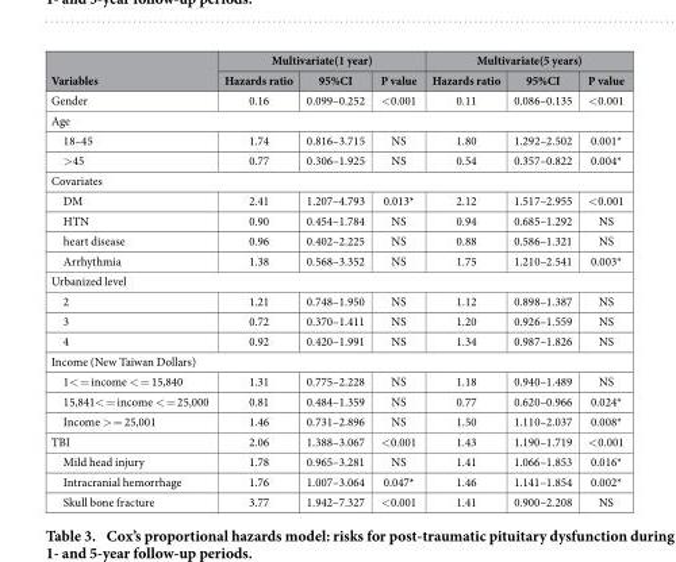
<table><thead><tr><td rowspan="2">Variables</td><td colspan="3">Multivariate(1 year)</td><td colspan="3">Multivariate(5 years)</td></tr><tr><td>Hazards ratio</td><td>95%CI</td><td>P value</td><td>Hazards ratio</td><td>95%CI</td><td>P value</td></tr></thead><tbody><tr><td>Gender</td><td>0.16</td><td>0.099–0.252</td><td>&lt; 0.001</td><td>0.11</td><td>0.086–0.135</td><td>&lt; 0.001</td></tr><tr><td colspan="7">Age</td></tr><tr><td>18–45</td><td>1.74</td><td>0.816–3.715</td><td>NS</td><td>1.80</td><td>1.292–2.502</td><td>0.001*</td></tr><tr><td>&gt; 45</td><td>0.77</td><td>0.306–1.925</td><td>NS</td><td>0.54</td><td>0.357–0.822</td><td>0.004*</td></tr><tr><td colspan="7">Covariates</td></tr><tr><td>DM</td><td>2.41</td><td>1.207–4.793</td><td>0.013*</td><td>2.12</td><td>1.517–2.955</td><td>&lt; 0.001</td></tr><tr><td>HTN</td><td>0.90</td><td>0.454–1.784</td><td>NS</td><td>0.94</td><td>0.685–1.292</td><td>NS</td></tr><tr><td>heart disease</td><td>0.96</td><td>0.402–2.225</td><td>NS</td><td>0.88</td><td>0.586–1.321</td><td>NS</td></tr><tr><td>Arrhythmia</td><td>1.38</td><td>0.568–3.352</td><td>NS</td><td>1.75</td><td>1.210–2.541</td><td>0.003*</td></tr><tr><td colspan="7">Urbanized level</td></tr><tr><td>2</td><td>1.21</td><td>0.748–1.950</td><td>NS</td><td>1.12</td><td>0.898–1.387</td><td>NS</td></tr><tr><td>3</td><td>0.72</td><td>0.370–1.411</td><td>NS</td><td>1.20</td><td>0.926–1.559</td><td>NS</td></tr><tr><td>4</td><td>0.92</td><td>0.420–1.991</td><td>NS</td><td>1.34</td><td>0.987–1.826</td><td>NS</td></tr><tr><td colspan="7">Income (New Taiwan Dollars)</td></tr><tr><td>1&lt; = income &lt; = 15,840</td><td>1.31</td><td>0.775–2.228</td><td>NS</td><td>1.18</td><td>0.940–1.489</td><td>NS</td></tr><tr><td>15,841&lt; = income &lt; = 25,000</td><td>0.81</td><td>0.484–1.359</td><td>NS</td><td>0.77</td><td>0.620–0.966</td><td>0.024*</td></tr><tr><td>Income &gt; = 25,001</td><td>1.46</td><td>0.731–2.896</td><td>NS</td><td>1.50</td><td>1.110–2.037</td><td>0.008*</td></tr><tr><td>TBI</td><td>2.06</td><td>1.388–3.067</td><td>&lt; 0.001</td><td>1.43</td><td>1.190–1.719</td><td>&lt; 0.001</td></tr><tr><td>Mild head injury</td><td>1.78</td><td>0.965–3.281</td><td>NS</td><td>1.41</td><td>1.066–1.853</td><td>0.016*</td></tr><tr><td>Intracranial hemorrhage</td><td>1.76</td><td>1.007–3.064</td><td>0.047*</td><td>1.46</td><td>1.141–1.854</td><td>0.002*</td></tr><tr><td>Skull bone fracture</td><td>3.77</td><td>1.942–7.327</td><td>&lt; 0.001</td><td>1.41</td><td>0.900–2.208</td><td>NS</td></tr></tbody></table>